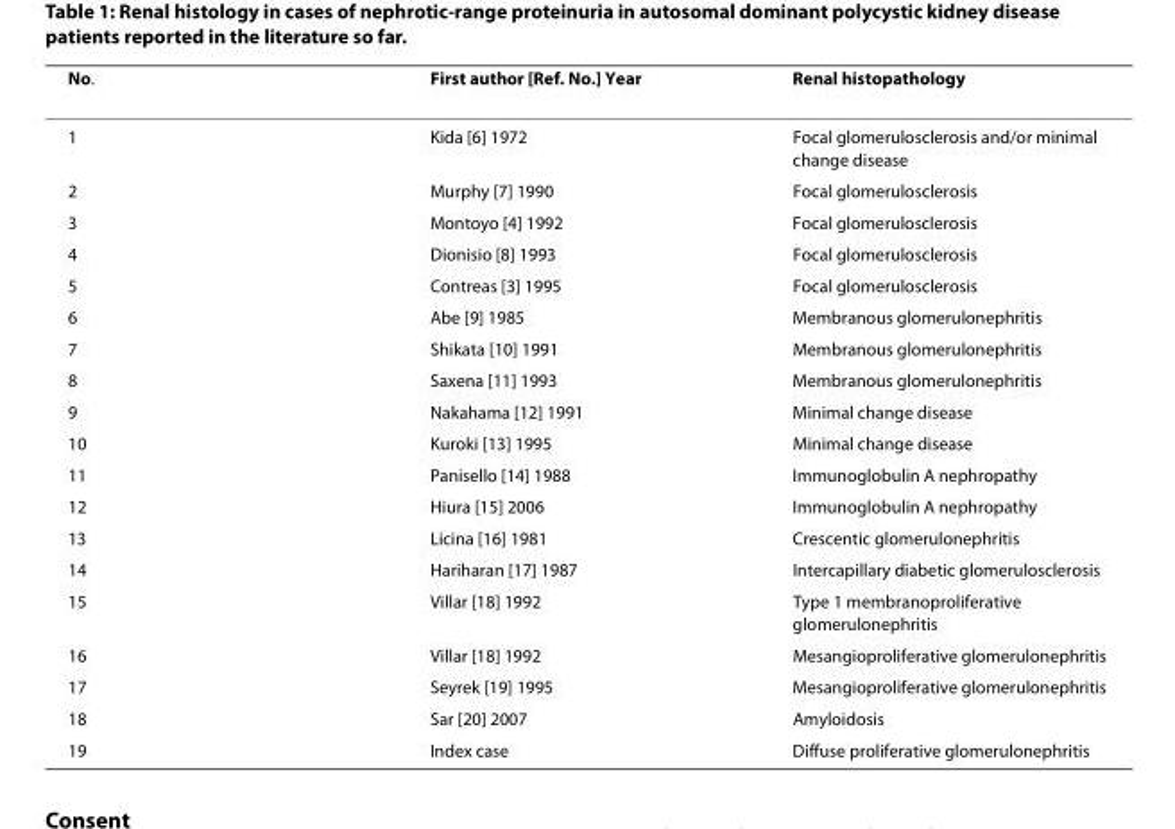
<table><thead><tr><td>No.</td><td>First author [Ref. No.] Year</td><td>Renal histopathology</td></tr></thead><tbody><tr><td>1</td><td>Kida [6] 1972</td><td>Focal glomerulosclerosis and/or minimal change disease</td></tr><tr><td>2</td><td>Murphy [7] 1990</td><td>Focal glomerulosclerosis</td></tr><tr><td>3</td><td>Montoyo [4] 1992</td><td>Focal glomerulosclerosis</td></tr><tr><td>4</td><td>Dionisio [8] 1993</td><td>Focal glomerulosclerosis</td></tr><tr><td>5</td><td>Contreas [3] 1995</td><td>Focal glomerulosclerosis</td></tr><tr><td>6</td><td>Abe [9] 1985</td><td>Membranous glomerulonephritis</td></tr><tr><td>7</td><td>Shikata [10] 1991</td><td>Membranous glomerulonephritis</td></tr><tr><td>8</td><td>Saxena [11] 1993</td><td>Membranous glomerulonephritis</td></tr><tr><td>9</td><td>Nakahama [12] 1991</td><td>Minimal change disease</td></tr><tr><td>10</td><td>Kuroki [13] 1995</td><td>Minimal change disease</td></tr><tr><td>11</td><td>Panisello [14] 1988</td><td>Immunoglobulin A nephropathy</td></tr><tr><td>12</td><td>Hiura [15] 2006</td><td>Immunoglobulin A nephropathy</td></tr><tr><td>13</td><td>Licina [16] 1981</td><td>Crescentic glomerulonephritis</td></tr><tr><td>14</td><td>Hariharan [17] 1987</td><td>Intercapillary diabetic glomerulosclerosis</td></tr><tr><td>15</td><td>Villar [18] 1992</td><td>Type 1 membranoproliferative glomerulonephritis</td></tr><tr><td>16</td><td>Villar [18] 1992</td><td>Mesangioproliferative glomerulonephritis</td></tr><tr><td>17</td><td>Seyrek [19] 1995</td><td>Mesangioproliferative glomerulonephritis</td></tr><tr><td>18</td><td>Sar [20] 2007</td><td>Amyloidosis</td></tr><tr><td>19</td><td>Index case</td><td>Diffuse proliferative glomerulonephritis</td></tr></tbody></table>